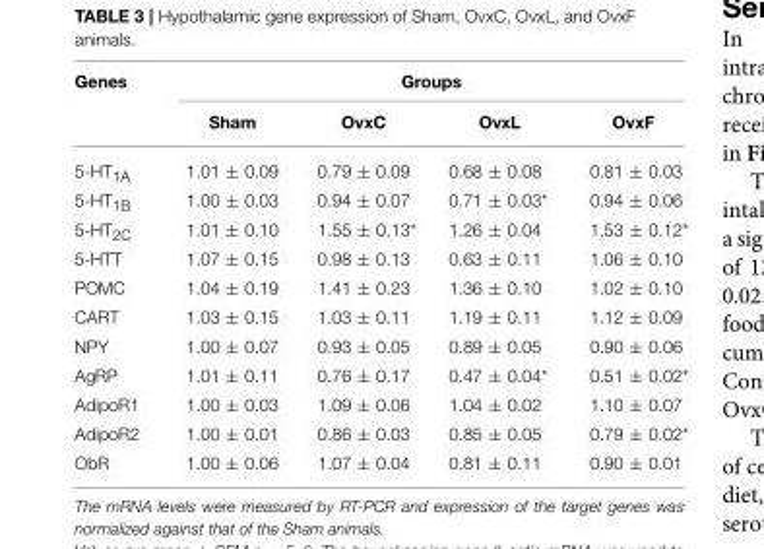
<table><thead><tr><td rowspan="2">Genes</td><td colspan="4">Groups</td></tr><tr><td>Sham</td><td>OvxC</td><td>OvxL</td><td>OvxF</td></tr></thead><tbody><tr><td>5-HT<sub>1A</sub></td><td>1.01 ± 0.09</td><td>0.79 ± 0.09</td><td>0.68 ± 0.08</td><td>0.81 ± 0.03</td></tr><tr><td>5-HT<sub>1B</sub></td><td>1.00 ± 0.03</td><td>0.94 ± 0.07</td><td>0.71 ± 0.03*</td><td>0.94 ± 0.06</td></tr><tr><td>5-HT<sub>2C</sub></td><td>1.01 ± 0.10</td><td>1.55 ± 0.13*</td><td>1.26 ± 0.04</td><td>1.53 ± 0.12*</td></tr><tr><td>5-HTT</td><td>1.07 ± 0.15</td><td>0.98 ± 0.13</td><td>0.63 ± 0.11</td><td>1.06 ± 0.10</td></tr><tr><td>POMC</td><td>1.04 ± 0.19</td><td>1.41 ± 0.23</td><td>1.36 ± 0.10</td><td>1.02 ± 0.10</td></tr><tr><td>CART</td><td>1.03 ± 0.15</td><td>1.03 ± 0.11</td><td>1.19 ± 0.11</td><td>1.12 ± 0.09</td></tr><tr><td>NPY</td><td>1.00 ± 0.07</td><td>0.93 ± 0.05</td><td>0.89 ± 0.05</td><td>0.90 ± 0.06</td></tr><tr><td>AgRP</td><td>1.01 ± 0.11</td><td>0.76 ± 0.17</td><td>0.47 ± 0.04*</td><td>0.51 ± 0.02*</td></tr><tr><td>AdipoR1</td><td>1.00 ± 0.03</td><td>1.09 ± 0.06</td><td>1.04 ± 0.02</td><td>1.10 ± 0.07</td></tr><tr><td>AdipoR2</td><td>1.00 ± 0.01</td><td>0.86 ± 0.03</td><td>0.85 ± 0.05</td><td>0.79 ± 0.02*</td></tr><tr><td>ObR</td><td>1.00 ± 0.06</td><td>1.07 ± 0.04</td><td>0.81 ± 0.11</td><td>0.90 ± 0.01</td></tr></tbody></table>